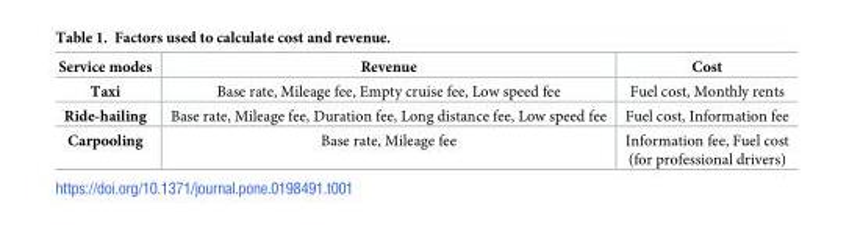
<table><thead><tr><td>Service modes</td><td>Revenue</td><td>Cost</td></tr></thead><tbody><tr><td>Taxi</td><td>Base rate, Mileage fee, Empty cruise fee, Low speed fee</td><td>Fuel cost, Monthly rents</td></tr><tr><td>Ride-hailing</td><td>Base rate, Mileage fee, Duration fee, Long distance fee, Low speed fee</td><td>Fuel cost, Information fee</td></tr><tr><td>Carpooling</td><td>Base rate, Mileage fee</td><td>Information fee, Fuel cost (for professional drivers)</td></tr></tbody></table>